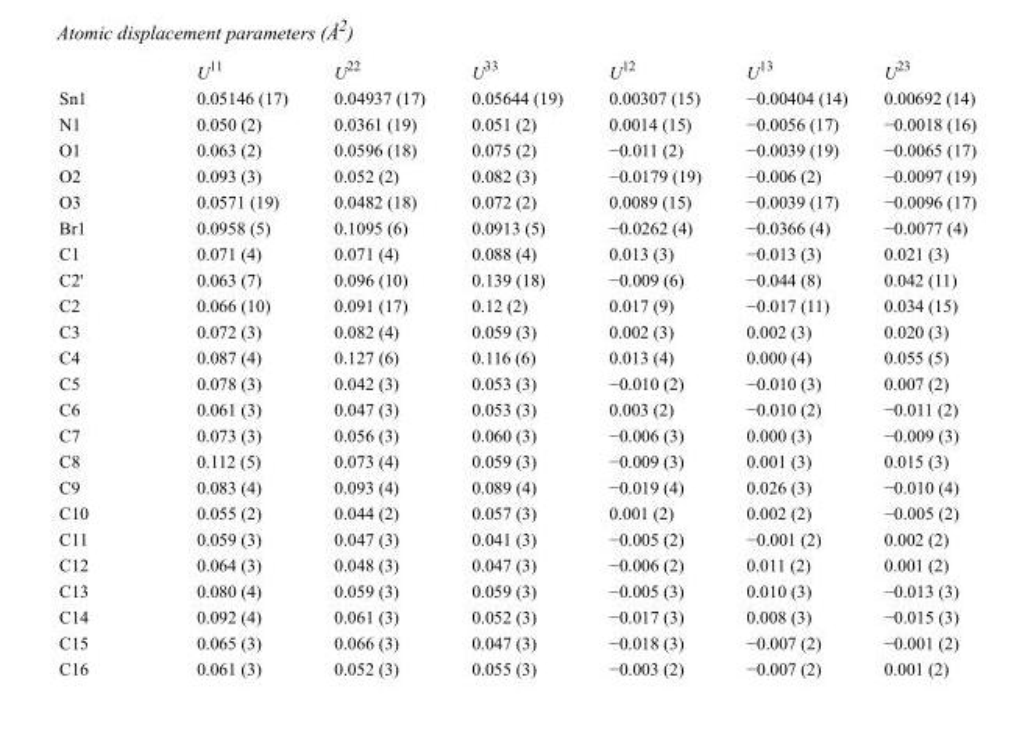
<table><thead><tr><td></td><td>U<sup>11</sup></td><td>U<sup>22</sup></td><td>U<sup>33</sup></td><td>U<sup>12</sup></td><td>U<sup>13</sup></td><td>U<sup>23</sup></td></tr></thead><tbody><tr><td>Sn1</td><td>0.05146 (17)</td><td>0.04937 (17)</td><td>0.05644 (19)</td><td>0.00307 (15)</td><td>−0.00404 (14)</td><td>0.00692 (14)</td></tr><tr><td>N1</td><td>0.050 (2)</td><td>0.0361 (19)</td><td>0.051 (2)</td><td>0.0014 (15)</td><td>−0.0056 (17)</td><td>−0.0018 (16)</td></tr><tr><td>O1</td><td>0.063 (2)</td><td>0.0596 (18)</td><td>0.075 (2)</td><td>−0.011 (2)</td><td>−0.0039 (19)</td><td>−0.0065 (17)</td></tr><tr><td>O2</td><td>0.093 (3)</td><td>0.052 (2)</td><td>0.082 (3)</td><td>−0.0179 (19)</td><td>−0.006 (2)</td><td>−0.0097 (19)</td></tr><tr><td>O3</td><td>0.0571 (19)</td><td>0.0482 (18)</td><td>0.072 (2)</td><td>0.0089 (15)</td><td>−0.0039 (17)</td><td>−0.0096 (17)</td></tr><tr><td>Br1</td><td>0.0958 (5)</td><td>0.1095 (6)</td><td>0.0913 (5)</td><td>−0.0262 (4)</td><td>−0.0366 (4)</td><td>−0.0077 (4)</td></tr><tr><td>C1</td><td>0.071 (4)</td><td>0.071 (4)</td><td>0.088 (4)</td><td>0.013 (3)</td><td>−0.013 (3)</td><td>0.021 (3)</td></tr><tr><td>C2&#x27;</td><td>0.063 (7)</td><td>0.096 (10)</td><td>0.139 (18)</td><td>−0.009 (6)</td><td>−0.044 (8)</td><td>0.042 (11)</td></tr><tr><td>C2</td><td>0.066 (10)</td><td>0.091 (17)</td><td>0.12 (2)</td><td>0.017 (9)</td><td>−0.017 (11)</td><td>0.034 (15)</td></tr><tr><td>C3</td><td>0.072 (3)</td><td>0.082 (4)</td><td>0.059 (3)</td><td>0.002 (3)</td><td>0.002 (3)</td><td>0.020 (3)</td></tr><tr><td>C4</td><td>0.087 (4)</td><td>0.127 (6)</td><td>0.116 (6)</td><td>0.013 (4)</td><td>0.000 (4)</td><td>0.055 (5)</td></tr><tr><td>C5</td><td>0.078 (3)</td><td>0.042 (3)</td><td>0.053 (3)</td><td>−0.010 (2)</td><td>−0.010 (3)</td><td>0.007 (2)</td></tr><tr><td>C6</td><td>0.061 (3)</td><td>0.047 (3)</td><td>0.053 (3)</td><td>0.003 (2)</td><td>−0.010 (2)</td><td>−0.011 (2)</td></tr><tr><td>C7</td><td>0.073 (3)</td><td>0.056 (3)</td><td>0.060 (3)</td><td>−0.006 (3)</td><td>0.000 (3)</td><td>−0.009 (3)</td></tr><tr><td>C8</td><td>0.112 (5)</td><td>0.073 (4)</td><td>0.059 (3)</td><td>−0.009 (3)</td><td>0.001 (3)</td><td>0.015 (3)</td></tr><tr><td>C9</td><td>0.083 (4)</td><td>0.093 (4)</td><td>0.089 (4)</td><td>−0.019 (4)</td><td>0.026 (3)</td><td>−0.010 (4)</td></tr><tr><td>C10</td><td>0.055 (2)</td><td>0.044 (2)</td><td>0.057 (3)</td><td>0.001 (2)</td><td>0.002 (2)</td><td>−0.005 (2)</td></tr><tr><td>C11</td><td>0.059 (3)</td><td>0.047 (3)</td><td>0.041 (3)</td><td>−0.005 (2)</td><td>−0.001 (2)</td><td>0.002 (2)</td></tr><tr><td>C12</td><td>0.064 (3)</td><td>0.048 (3)</td><td>0.047 (3)</td><td>−0.006 (2)</td><td>0.011 (2)</td><td>0.001 (2)</td></tr><tr><td>C13</td><td>0.080 (4)</td><td>0.059 (3)</td><td>0.059 (3)</td><td>−0.005 (3)</td><td>0.010 (3)</td><td>−0.013 (3)</td></tr><tr><td>C14</td><td>0.092 (4)</td><td>0.061 (3)</td><td>0.052 (3)</td><td>−0.017 (3)</td><td>0.008 (3)</td><td>−0.015 (3)</td></tr><tr><td>C15</td><td>0.065 (3)</td><td>0.066 (3)</td><td>0.047 (3)</td><td>−0.018 (3)</td><td>−0.007 (2)</td><td>−0.001 (2)</td></tr><tr><td>C16</td><td>0.061 (3)</td><td>0.052 (3)</td><td>0.055 (3)</td><td>−0.003 (2)</td><td>−0.007 (2)</td><td>0.001 (2)</td></tr></tbody></table>